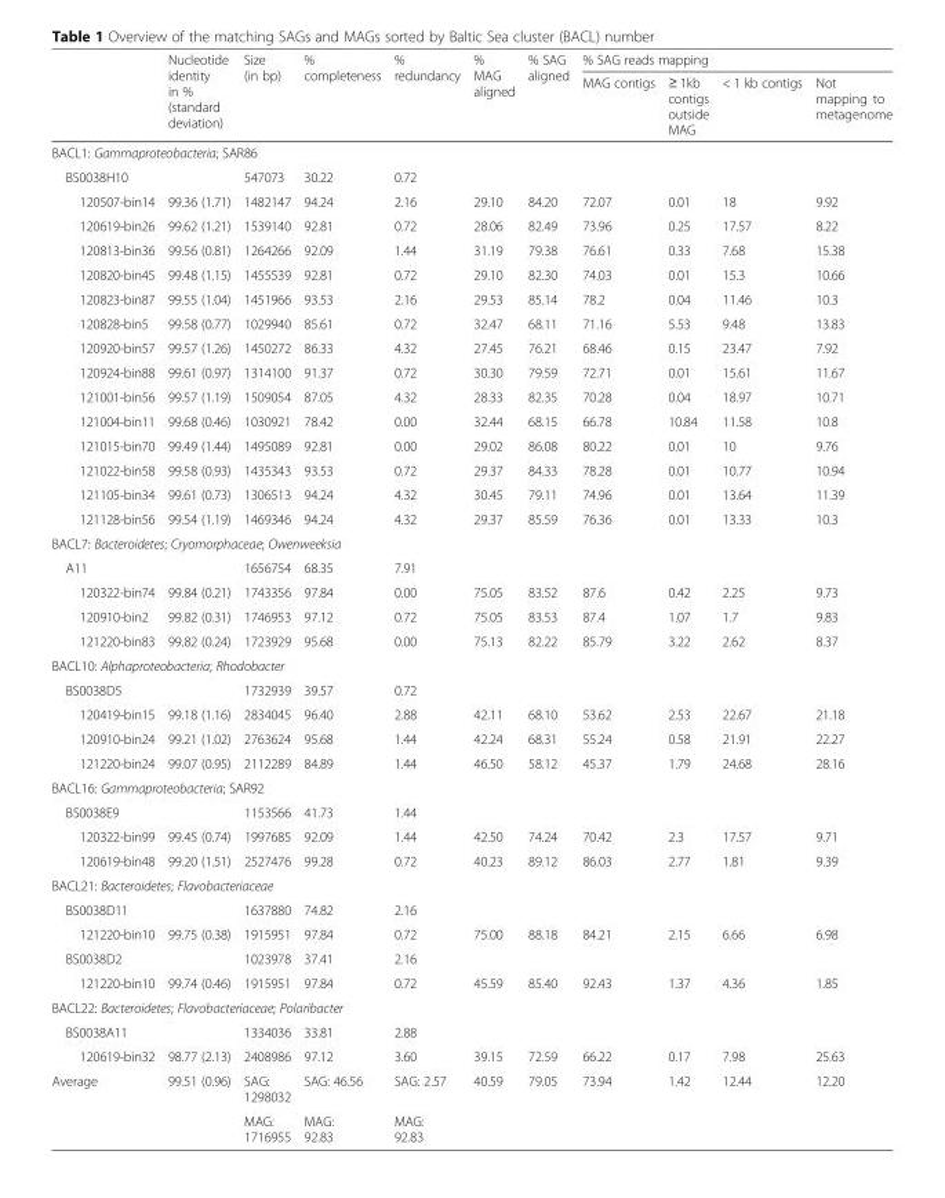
<table><thead><tr><td rowspan="2"></td><td rowspan="2">Nucleotide identity in % (standard deviation)</td><td rowspan="2">Size (in bp)</td><td rowspan="2">% completeness</td><td rowspan="2">% redundancy</td><td rowspan="2">% MAG aligned</td><td rowspan="2">% SAG aligned</td><td colspan="4">% SAG reads mapping</td></tr><tr><td>MAG contigs</td><td>≥ 1kb contigs outside MAG</td><td>&lt; 1 kb contigs</td><td>Not mapping to metagenome</td></tr></thead><tbody><tr><td colspan="11">BACL1: Gammaproteobacteria; SAR86</td></tr><tr><td>BS0038H10</td><td></td><td>547073</td><td>30.22</td><td>0.72</td><td></td><td></td><td></td><td></td><td></td><td></td></tr><tr><td>120507-bin14</td><td>99.36 (1.71)</td><td>1482147</td><td>94.24</td><td>2.16</td><td>29.10</td><td>84.20</td><td>72.07</td><td>0.01</td><td>18</td><td>9.92</td></tr><tr><td>120619-bin26</td><td>99.62 (1.21)</td><td>1539140</td><td>92.81</td><td>0.72</td><td>28.06</td><td>82.49</td><td>73.96</td><td>0.25</td><td>17.57</td><td>8.22</td></tr><tr><td>120813-bin36</td><td>99.56 (0.81)</td><td>1264266</td><td>92.09</td><td>1.44</td><td>31.19</td><td>79.38</td><td>76.61</td><td>0.33</td><td>7.68</td><td>15.38</td></tr><tr><td>120820-bin45</td><td>99.48 (1.15)</td><td>1455539</td><td>92.81</td><td>0.72</td><td>29.10</td><td>82.30</td><td>74.03</td><td>0.01</td><td>15.3</td><td>10.66</td></tr><tr><td>120823-bin87</td><td>99.55 (1.04)</td><td>1451966</td><td>93.53</td><td>2.16</td><td>29.53</td><td>85.14</td><td>78.2</td><td>0.04</td><td>11.46</td><td>10.3</td></tr><tr><td>120828-bin5</td><td>99.58 (0.77)</td><td>1029940</td><td>85.61</td><td>0.72</td><td>32.47</td><td>68.11</td><td>71.16</td><td>5.53</td><td>9.48</td><td>13.83</td></tr><tr><td>120920-bin57</td><td>99.57 (1.26)</td><td>1450272</td><td>86.33</td><td>4.32</td><td>27.45</td><td>76.21</td><td>68.46</td><td>0.15</td><td>23.47</td><td>7.92</td></tr><tr><td>120924-bin88</td><td>99.61 (0.97)</td><td>1314100</td><td>91.37</td><td>0.72</td><td>30.30</td><td>79.59</td><td>72.71</td><td>0.01</td><td>15.61</td><td>11.67</td></tr><tr><td>121001-bin56</td><td>99.57 (1.19)</td><td>1509054</td><td>87.05</td><td>4.32</td><td>28.33</td><td>82.35</td><td>70.28</td><td>0.04</td><td>18.97</td><td>10.71</td></tr><tr><td>121004-bin11</td><td>99.68 (0.46)</td><td>1030921</td><td>78.42</td><td>0.00</td><td>32.44</td><td>68.15</td><td>66.78</td><td>10.84</td><td>11.58</td><td>10.8</td></tr><tr><td>121015-bin70</td><td>99.49 (1.44)</td><td>1495089</td><td>92.81</td><td>0.00</td><td>29.02</td><td>86.08</td><td>80.22</td><td>0.01</td><td>10</td><td>9.76</td></tr><tr><td>121022-bin58</td><td>99.58 (0.93)</td><td>1435343</td><td>93.53</td><td>0.72</td><td>29.37</td><td>84.33</td><td>78.28</td><td>0.01</td><td>10.77</td><td>10.94</td></tr><tr><td>121105-bin34</td><td>99.61 (0.73)</td><td>1306513</td><td>94.24</td><td>4.32</td><td>30.45</td><td>79.11</td><td>74.96</td><td>0.01</td><td>13.64</td><td>11.39</td></tr><tr><td>121128-bin56</td><td>99.54 (1.19)</td><td>1469346</td><td>94.24</td><td>4.32</td><td>29.37</td><td>85.59</td><td>76.36</td><td>0.01</td><td>13.33</td><td>10.3</td></tr><tr><td colspan="11">BACL7: Bacteroidetes; Cryomorphaceae; Owenweeksia</td></tr><tr><td>A11</td><td></td><td>1656754</td><td>68.35</td><td>7.91</td><td></td><td></td><td></td><td></td><td></td><td></td></tr><tr><td>120322-bin74</td><td>99.84 (0.21)</td><td>1743356</td><td>97.84</td><td>0.00</td><td>75.05</td><td>83.52</td><td>87.6</td><td>0.42</td><td>2.25</td><td>9.73</td></tr><tr><td>120910-bin2</td><td>99.82 (0.31)</td><td>1746953</td><td>97.12</td><td>0.72</td><td>75.05</td><td>83.53</td><td>87.4</td><td>1.07</td><td>1.7</td><td>9.83</td></tr><tr><td>121220-bin83</td><td>99.82 (0.24)</td><td>1723929</td><td>95.68</td><td>0.00</td><td>75.13</td><td>82.22</td><td>85.79</td><td>3.22</td><td>2.62</td><td>8.37</td></tr><tr><td colspan="11">BACL10: Alphaproteobacteria; Rhodobacter</td></tr><tr><td>BS0038D5</td><td></td><td>1732939</td><td>39.57</td><td>0.72</td><td></td><td></td><td></td><td></td><td></td><td></td></tr><tr><td>120419-bin15</td><td>99.18 (1.16)</td><td>2834045</td><td>96.40</td><td>2.88</td><td>42.11</td><td>68.10</td><td>53.62</td><td>2.53</td><td>22.67</td><td>21.18</td></tr><tr><td>120910-bin24</td><td>99.21 (1.02)</td><td>2763624</td><td>95.68</td><td>1.44</td><td>42.24</td><td>68.31</td><td>55.24</td><td>0.58</td><td>21.91</td><td>22.27</td></tr><tr><td>121220-bin24</td><td>99.07 (0.95)</td><td>2112289</td><td>84.89</td><td>1.44</td><td>46.50</td><td>58.12</td><td>45.37</td><td>1.79</td><td>24.68</td><td>28.16</td></tr><tr><td colspan="11">BACL16: Gammaproteobacteria; SAR92</td></tr><tr><td>BS0038E9</td><td></td><td>1153566</td><td>41.73</td><td>1.44</td><td></td><td></td><td></td><td></td><td></td><td></td></tr><tr><td>120322-bin99</td><td>99.45 (0.74)</td><td>1997685</td><td>92.09</td><td>1.44</td><td>42.50</td><td>74.24</td><td>70.42</td><td>2.3</td><td>17.57</td><td>9.71</td></tr><tr><td>120619-bin48</td><td>99.20 (1.51)</td><td>2527476</td><td>99.28</td><td>0.72</td><td>40.23</td><td>89.12</td><td>86.03</td><td>2.77</td><td>1.81</td><td>9.39</td></tr><tr><td colspan="11">BACL21: Bacteroidetes; Flavobacteriaceae</td></tr><tr><td>BS0038D11</td><td></td><td>1637880</td><td>74.82</td><td>2.16</td><td></td><td></td><td></td><td></td><td></td><td></td></tr><tr><td>121220-bin10</td><td>99.75 (0.38)</td><td>1915951</td><td>97.84</td><td>0.72</td><td>75.00</td><td>88.18</td><td>84.21</td><td>2.15</td><td>6.66</td><td>6.98</td></tr><tr><td>BS0038D2</td><td></td><td>1023978</td><td>37.41</td><td>2.16</td><td></td><td></td><td></td><td></td><td></td><td></td></tr><tr><td>121220-bin10</td><td>99.74 (0.46)</td><td>1915951</td><td>97.84</td><td>0.72</td><td>45.59</td><td>85.40</td><td>92.43</td><td>1.37</td><td>4.36</td><td>1.85</td></tr><tr><td colspan="11">BACL22: Bacteroidetes; Flavobacteriaceae; Polaribacter</td></tr><tr><td>BS0038A11</td><td></td><td>1334036</td><td>33.81</td><td>2.88</td><td></td><td></td><td></td><td></td><td></td><td></td></tr><tr><td>120619-bin32</td><td>98.77 (2.13)</td><td>2408986</td><td>97.12</td><td>3.60</td><td>39.15</td><td>72.59</td><td>66.22</td><td>0.17</td><td>7.98</td><td>25.63</td></tr><tr><td rowspan="2">Average</td><td>99.51 (0.96)</td><td>SAG: 1298032</td><td>SAG: 46.56</td><td>SAG: 2.57</td><td>40.59</td><td>79.05</td><td>73.94</td><td>1.42</td><td>12.44</td><td>12.20</td></tr><tr><td></td><td>MAG: 1716955</td><td>MAG: 92.83</td><td>MAG: 92.83</td><td></td><td></td><td></td><td></td><td></td><td></td></tr></tbody></table>